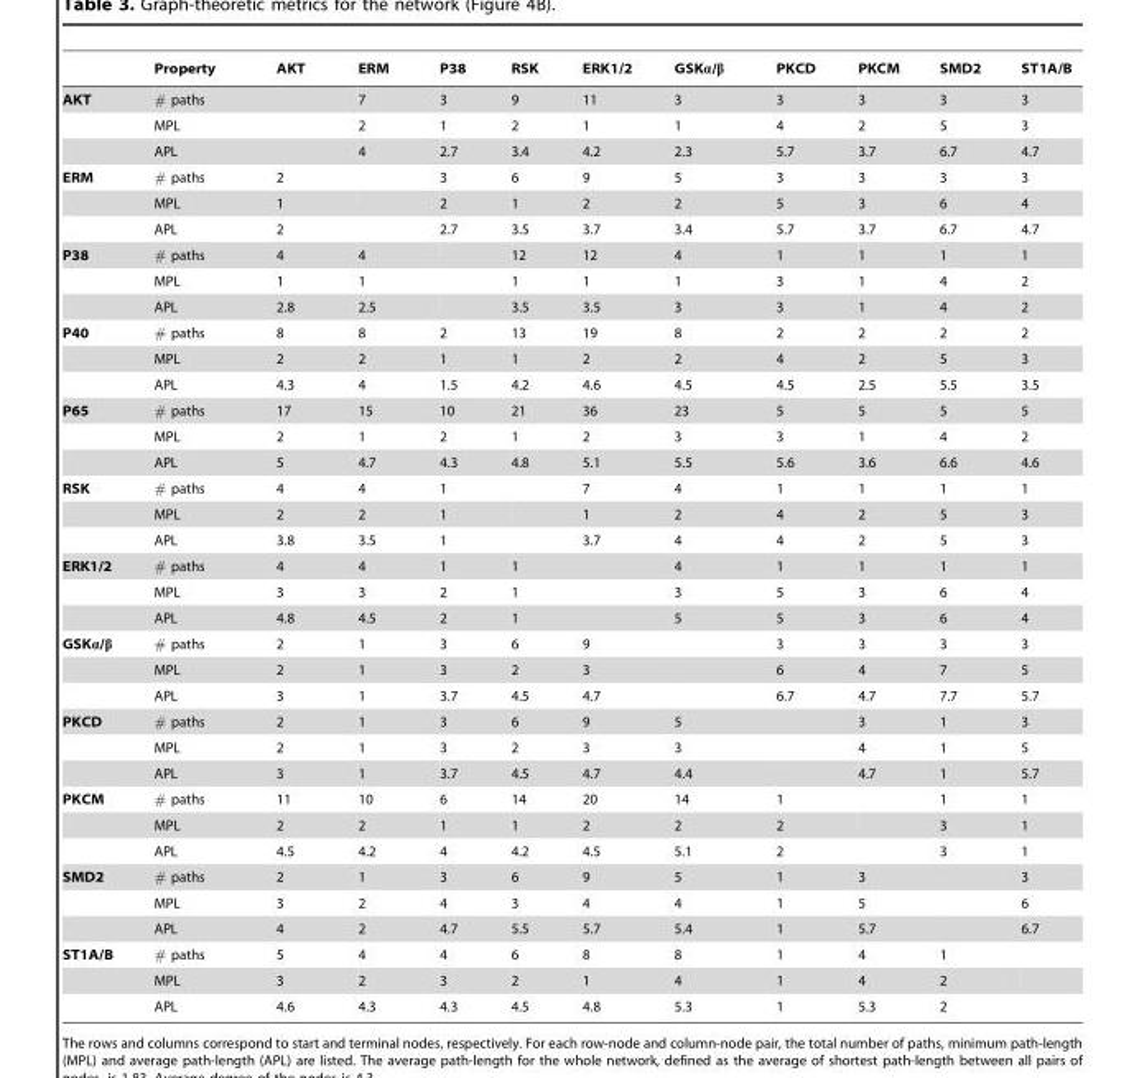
<table><thead><tr><td></td><td>Property</td><td>AKT</td><td>ERM</td><td>P38</td><td>RSK</td><td>ERK1/2</td><td>GSKα/β</td><td>PKCD</td><td>PKCM</td><td>SMD2</td><td>ST1A/B</td></tr></thead><tbody><tr><td rowspan="3">AKT</td><td># paths</td><td></td><td>7</td><td>3</td><td>9</td><td>11</td><td>3</td><td>3</td><td>3</td><td>3</td><td>3</td></tr><tr><td>MPL</td><td></td><td>2</td><td>1</td><td>2</td><td>1</td><td>1</td><td>4</td><td>2</td><td>5</td><td>3</td></tr><tr><td>APL</td><td></td><td>4</td><td>2.7</td><td>3.4</td><td>4.2</td><td>2.3</td><td>5.7</td><td>3.7</td><td>6.7</td><td>4.7</td></tr><tr><td rowspan="3">ERM</td><td># paths</td><td>2</td><td></td><td>3</td><td>6</td><td>9</td><td>5</td><td>3</td><td>3</td><td>3</td><td>3</td></tr><tr><td>MPL</td><td>1</td><td></td><td>2</td><td>1</td><td>2</td><td>2</td><td>5</td><td>3</td><td>6</td><td>4</td></tr><tr><td>APL</td><td>2</td><td></td><td>2.7</td><td>3.5</td><td>3.7</td><td>3.4</td><td>5.7</td><td>3.7</td><td>6.7</td><td>4.7</td></tr><tr><td rowspan="3">P38</td><td># paths</td><td>4</td><td>4</td><td></td><td>12</td><td>12</td><td>4</td><td>1</td><td>1</td><td>1</td><td>1</td></tr><tr><td>MPL</td><td>1</td><td>1</td><td></td><td>1</td><td>1</td><td>1</td><td>3</td><td>1</td><td>4</td><td>2</td></tr><tr><td>APL</td><td>2.8</td><td>2.5</td><td></td><td>3.5</td><td>3.5</td><td>3</td><td>3</td><td>1</td><td>4</td><td>2</td></tr><tr><td rowspan="3">P40</td><td># paths</td><td>8</td><td>8</td><td>2</td><td>13</td><td>19</td><td>8</td><td>2</td><td>2</td><td>2</td><td>2</td></tr><tr><td>MPL</td><td>2</td><td>2</td><td>1</td><td>1</td><td>2</td><td>2</td><td>4</td><td>2</td><td>5</td><td>3</td></tr><tr><td>APL</td><td>4.3</td><td>4</td><td>1.5</td><td>4.2</td><td>4.6</td><td>4.5</td><td>4.5</td><td>2.5</td><td>5.5</td><td>3.5</td></tr><tr><td rowspan="3">P65</td><td># paths</td><td>17</td><td>15</td><td>10</td><td>21</td><td>36</td><td>23</td><td>5</td><td>5</td><td>5</td><td>5</td></tr><tr><td>MPL</td><td>2</td><td>1</td><td>2</td><td>1</td><td>2</td><td>3</td><td>3</td><td>1</td><td>4</td><td>2</td></tr><tr><td>APL</td><td>5</td><td>4.7</td><td>4.3</td><td>4.8</td><td>5.1</td><td>5.5</td><td>5.6</td><td>3.6</td><td>6.6</td><td>4.6</td></tr><tr><td rowspan="3">RSK</td><td># paths</td><td>4</td><td>4</td><td>1</td><td></td><td>7</td><td>4</td><td>1</td><td>1</td><td>1</td><td>1</td></tr><tr><td>MPL</td><td>2</td><td>2</td><td>1</td><td></td><td>1</td><td>2</td><td>4</td><td>2</td><td>5</td><td>3</td></tr><tr><td>APL</td><td>3.8</td><td>3.5</td><td>1</td><td></td><td>3.7</td><td>4</td><td>4</td><td>2</td><td>5</td><td>3</td></tr><tr><td rowspan="3">ERK1/2</td><td># paths</td><td>4</td><td>4</td><td>1</td><td>1</td><td></td><td>4</td><td>1</td><td>1</td><td>1</td><td>1</td></tr><tr><td>MPL</td><td>3</td><td>3</td><td>2</td><td>1</td><td></td><td>3</td><td>5</td><td>3</td><td>6</td><td>4</td></tr><tr><td>APL</td><td>4.8</td><td>4.5</td><td>2</td><td>1</td><td></td><td>5</td><td>5</td><td>3</td><td>6</td><td>4</td></tr><tr><td rowspan="3">GSKα/β</td><td># paths</td><td>2</td><td>1</td><td>3</td><td>6</td><td>9</td><td></td><td>3</td><td>3</td><td>3</td><td>3</td></tr><tr><td>MPL</td><td>2</td><td>1</td><td>3</td><td>2</td><td>3</td><td></td><td>6</td><td>4</td><td>7</td><td>5</td></tr><tr><td>APL</td><td>3</td><td>1</td><td>3.7</td><td>4.5</td><td>4.7</td><td></td><td>6.7</td><td>4.7</td><td>7.7</td><td>5.7</td></tr><tr><td rowspan="3">PKCD</td><td># paths</td><td>2</td><td>1</td><td>3</td><td>6</td><td>9</td><td>5</td><td></td><td>3</td><td>1</td><td>3</td></tr><tr><td>MPL</td><td>2</td><td>1</td><td>3</td><td>2</td><td>3</td><td>3</td><td></td><td>4</td><td>1</td><td>5</td></tr><tr><td>APL</td><td>3</td><td>1</td><td>3.7</td><td>4.5</td><td>4.7</td><td>4.4</td><td></td><td>4.7</td><td>1</td><td>5.7</td></tr><tr><td rowspan="3">PKCM</td><td># paths</td><td>11</td><td>10</td><td>6</td><td>14</td><td>20</td><td>14</td><td>1</td><td></td><td>1</td><td>1</td></tr><tr><td>MPL</td><td>2</td><td>2</td><td>1</td><td>1</td><td>2</td><td>2</td><td>2</td><td></td><td>3</td><td>1</td></tr><tr><td>APL</td><td>4.5</td><td>4.2</td><td>4</td><td>4.2</td><td>4.5</td><td>5.1</td><td>2</td><td></td><td>3</td><td>1</td></tr><tr><td rowspan="3">SMD2</td><td># paths</td><td>2</td><td>1</td><td>3</td><td>6</td><td>9</td><td>5</td><td>1</td><td>3</td><td></td><td>3</td></tr><tr><td>MPL</td><td>3</td><td>2</td><td>4</td><td>3</td><td>4</td><td>4</td><td>1</td><td>5</td><td></td><td>6</td></tr><tr><td>APL</td><td>4</td><td>2</td><td>4.7</td><td>5.5</td><td>5.7</td><td>5.4</td><td>1</td><td>5.7</td><td></td><td>6.7</td></tr><tr><td rowspan="3">ST1A/B</td><td># paths</td><td>5</td><td>4</td><td>4</td><td>6</td><td>8</td><td>8</td><td>1</td><td>4</td><td>1</td><td></td></tr><tr><td>MPL</td><td>3</td><td>2</td><td>3</td><td>2</td><td>1</td><td>4</td><td>1</td><td>4</td><td>2</td><td></td></tr><tr><td>APL</td><td>4.6</td><td>4.3</td><td>4.3</td><td>4.5</td><td>4.8</td><td>5.3</td><td>1</td><td>5.3</td><td>2</td><td></td></tr></tbody></table>